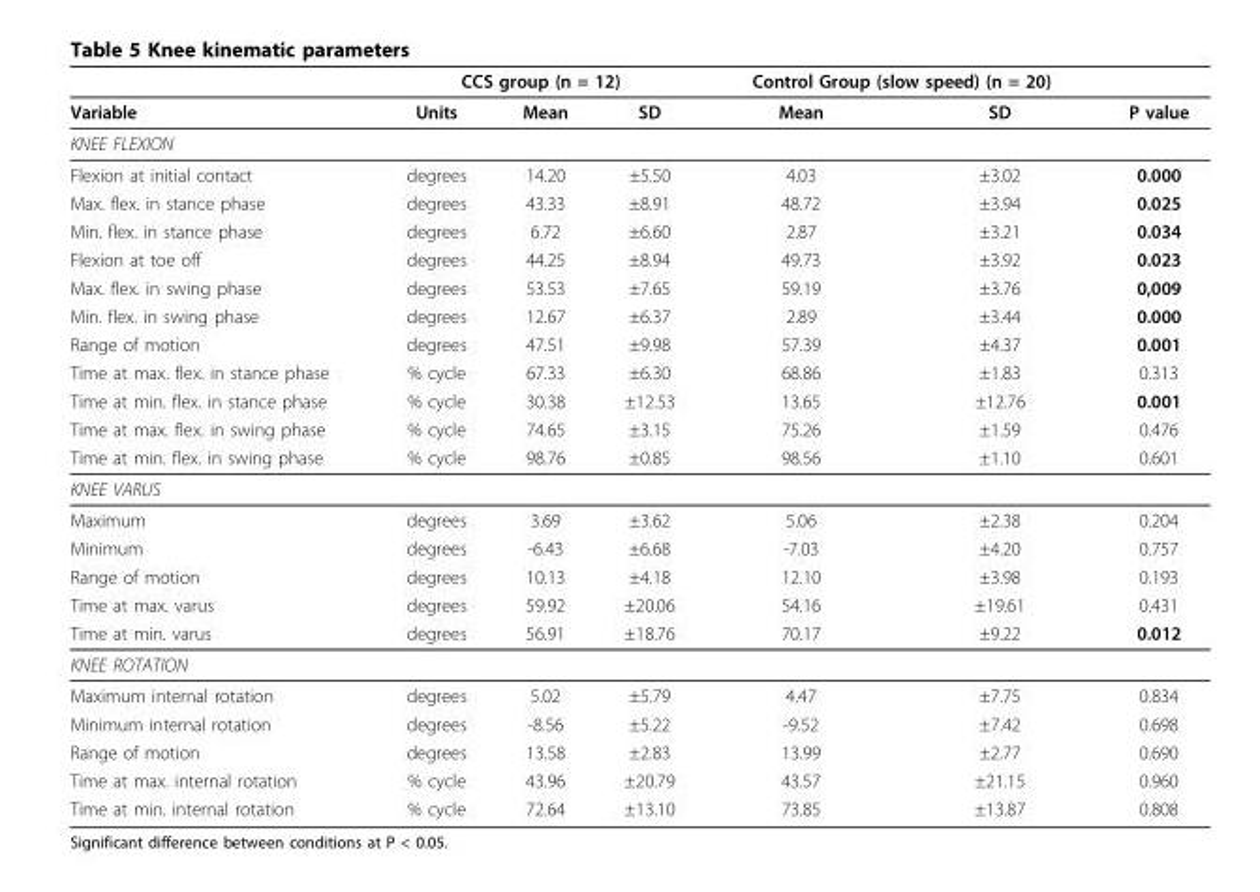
<table><thead><tr><td rowspan="2">Variable</td><td colspan="3">CCS group (n = 12)</td><td colspan="2">Control Group (slow speed) (n = 20)</td><td rowspan="2">P value</td></tr><tr><td>Units</td><td>Mean</td><td>SD</td><td>Mean</td><td>SD</td></tr></thead><tbody><tr><td colspan="7">KNEE FLEXION</td></tr><tr><td>Flexion at initial contact</td><td>degrees</td><td>14.20</td><td>±5.50</td><td>4.03</td><td>±3.02</td><td>0.000</td></tr><tr><td>Max. flex. in stance phase</td><td>degrees</td><td>43.33</td><td>±8.91</td><td>48.72</td><td>±3.94</td><td>0.025</td></tr><tr><td>Min. flex. in stance phase</td><td>degrees</td><td>6.72</td><td>±6.60</td><td>2.87</td><td>±3.21</td><td>0.034</td></tr><tr><td>Flexion at toe off</td><td>degrees</td><td>44.25</td><td>±8.94</td><td>49.73</td><td>±3.92</td><td>0.023</td></tr><tr><td>Max. flex. in swing phase</td><td>degrees</td><td>53.53</td><td>±7.65</td><td>59.19</td><td>±3.76</td><td>0,009</td></tr><tr><td>Min. flex. in swing phase</td><td>degrees</td><td>12.67</td><td>±6.37</td><td>2.89</td><td>±3.44</td><td>0.000</td></tr><tr><td>Range of motion</td><td>degrees</td><td>47.51</td><td>±9.98</td><td>57.39</td><td>±4.37</td><td>0.001</td></tr><tr><td>Time at max. flex. in stance phase</td><td>% cycle</td><td>67.33</td><td>±6.30</td><td>68.86</td><td>±1.83</td><td>0.313</td></tr><tr><td>Time at min. flex. in stance phase</td><td>% cycle</td><td>30.38</td><td>±12.53</td><td>13.65</td><td>±12.76</td><td>0.001</td></tr><tr><td>Time at max. flex. in swing phase</td><td>% cycle</td><td>74.65</td><td>±3.15</td><td>75.26</td><td>±1.59</td><td>0.476</td></tr><tr><td>Time at min. flex. in swing phase</td><td>% cycle</td><td>98.76</td><td>±0.85</td><td>98.56</td><td>±1.10</td><td>0.601</td></tr><tr><td colspan="7">KNEE VARUS</td></tr><tr><td>Maximum</td><td>degrees</td><td>3.69</td><td>±3.62</td><td>5.06</td><td>±2.38</td><td>0.204</td></tr><tr><td>Minimum</td><td>degrees</td><td>-6.43</td><td>±6.68</td><td>-7.03</td><td>±4.20</td><td>0.757</td></tr><tr><td>Range of motion</td><td>degrees</td><td>10.13</td><td>±4.18</td><td>12.10</td><td>±3.98</td><td>0.193</td></tr><tr><td>Time at max. varus</td><td>degrees</td><td>59.92</td><td>±20.06</td><td>54.16</td><td>±19.61</td><td>0.431</td></tr><tr><td>Time at min. varus</td><td>degrees</td><td>56.91</td><td>±18.76</td><td>70.17</td><td>±9.22</td><td>0.012</td></tr><tr><td colspan="7">KNEE ROTATION</td></tr><tr><td>Maximum internal rotation</td><td>degrees</td><td>5.02</td><td>±5.79</td><td>4.47</td><td>±7.75</td><td>0.834</td></tr><tr><td>Minimum internal rotation</td><td>degrees</td><td>-8.56</td><td>±5.22</td><td>-9.52</td><td>±7.42</td><td>0.698</td></tr><tr><td>Range of motion</td><td>degrees</td><td>13.58</td><td>±2.83</td><td>13.99</td><td>±2.77</td><td>0.690</td></tr><tr><td>Time at max. internal rotation</td><td>% cycle</td><td>43.96</td><td>±20.79</td><td>43.57</td><td>±21.15</td><td>0.960</td></tr><tr><td>Time at min. internal rotation</td><td>% cycle</td><td>72.64</td><td>±13.10</td><td>73.85</td><td>±13.87</td><td>0.808</td></tr></tbody></table>